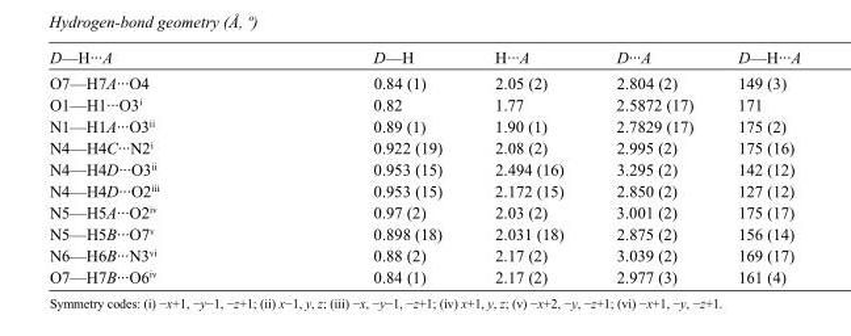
<table><tbody><tr><td>D—H···A</td><td>D—H</td><td>H···A</td><td>D···A</td><td>D—H···A</td></tr><tr><td>O7—H7A···O4</td><td>0.84 (1)</td><td>2.05 (2)</td><td>2.804 (2)</td><td>149 (3)</td></tr><tr><td>O1—H1···O3<sup>i</sup></td><td>0.82</td><td>1.77</td><td>2.5872 (17)</td><td>171</td></tr><tr><td>N1—H1A···O3<sup>ii</sup></td><td>0.89 (1)</td><td>1.90 (1)</td><td>2.7829 (17)</td><td>175 (2)</td></tr><tr><td>N4—H4C···N2<sup>i</sup></td><td>0.922 (19)</td><td>2.08 (2)</td><td>2.995 (2)</td><td>175 (16)</td></tr><tr><td>N4—H4D···O3<sup>ii</sup></td><td>0.953 (15)</td><td>2.494 (16)</td><td>3.295 (2)</td><td>142 (12)</td></tr><tr><td>N4—H4D···O2<sup>iii</sup></td><td>0.953 (15)</td><td>2.172 (15)</td><td>2.850 (2)</td><td>127 (12)</td></tr><tr><td>N5—H5A···O2<sup>iv</sup></td><td>0.97 (2)</td><td>2.03 (2)</td><td>3.001 (2)</td><td>175 (17)</td></tr><tr><td>N5—H5B···O7<sup>v</sup></td><td>0.898 (18)</td><td>2.031 (18)</td><td>2.875 (2)</td><td>156 (14)</td></tr><tr><td>N6—H6B···N3<sup>vi</sup></td><td>0.88 (2)</td><td>2.17 (2)</td><td>3.039 (2)</td><td>169 (17)</td></tr><tr><td>O7—H7B···O6<sup>iv</sup></td><td>0.84 (1)</td><td>2.17 (2)</td><td>2.977 (3)</td><td>161 (4)</td></tr></tbody></table>